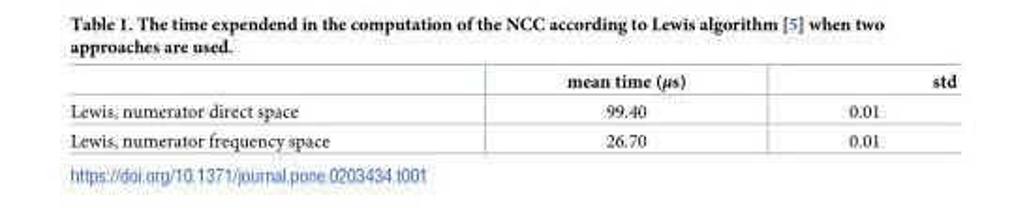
<table><thead><tr><td></td><td>mean time (μs)</td><td>std</td></tr></thead><tbody><tr><td>Lewis, numerator direct space</td><td>99.40</td><td>0.01</td></tr><tr><td>Lewis, numerator frequency space</td><td>26.70</td><td>0.01</td></tr></tbody></table>